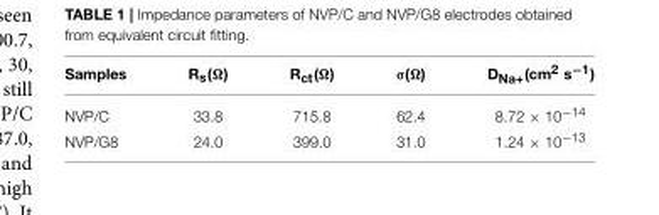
<table><thead><tr><td>Samples</td><td>R<sub>s</sub>(Ω)</td><td>R<sub>ct</sub>(Ω)</td><td>σ(Ω)</td><td>D<sub>Na+</sub>(cm<sup>2</sup> s<sup>−1</sup>)</td></tr></thead><tbody><tr><td>NVP/C</td><td>33.8</td><td>715.8</td><td>62.4</td><td>8.72 × 10<sup>−14</sup></td></tr><tr><td>NVP/G8</td><td>24.0</td><td>399.0</td><td>31.0</td><td>1.24 × 10<sup>−13</sup></td></tr></tbody></table>